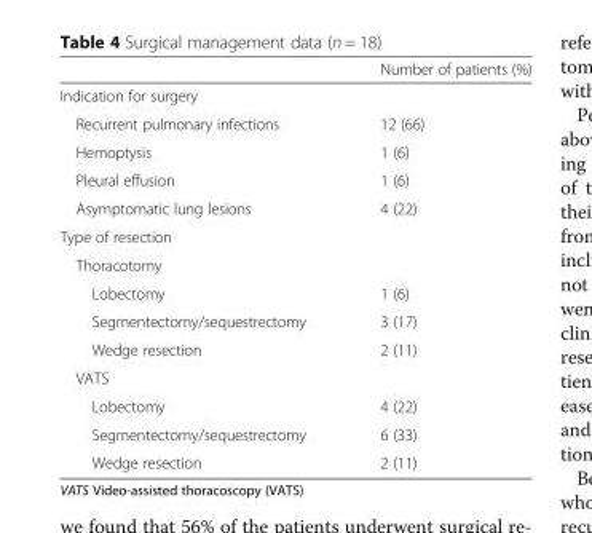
<table><thead><tr><td></td><td>Number of patients (%)</td></tr></thead><tbody><tr><td colspan="2">Indication for surgery</td></tr><tr><td>Recurrent pulmonary infections</td><td>12 (66)</td></tr><tr><td>Hemoptysis</td><td>1 (6)</td></tr><tr><td>Pleural effusion</td><td>1 (6)</td></tr><tr><td>Asymptomatic lung lesions</td><td>4 (22)</td></tr><tr><td colspan="2">Type of resection</td></tr><tr><td colspan="2">Thoracotomy</td></tr><tr><td>Lobectomy</td><td>1 (6)</td></tr><tr><td>Segmentectomy/sequestrectomy</td><td>3 (17)</td></tr><tr><td>Wedge resection</td><td>2 (11)</td></tr><tr><td colspan="2">VATS</td></tr><tr><td>Lobectomy</td><td>4 (22)</td></tr><tr><td>Segmentectomy/sequestrectomy</td><td>6 (33)</td></tr><tr><td>Wedge resection</td><td>2 (11)</td></tr></tbody></table>